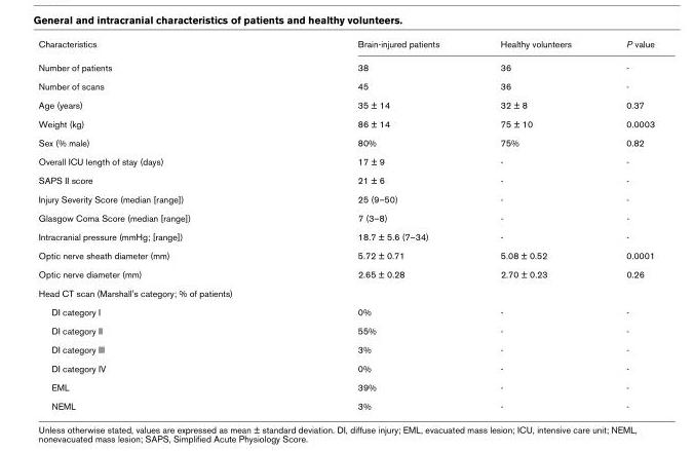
<table><tbody><tr><td>Characteristics</td><td>Brain-injured patients</td><td>Healthy volunteers</td><td>P value</td></tr><tr><td>Number of patients</td><td>38</td><td>36</td><td>-</td></tr><tr><td>Number of scans</td><td>45</td><td>36</td><td>-</td></tr><tr><td>Age (years)</td><td>35 ± 14</td><td>32 ± 8</td><td>0.37</td></tr><tr><td>Weight (kg)</td><td>86 ± 14</td><td>75 ± 10</td><td>0.0003</td></tr><tr><td>Sex (% male)</td><td>80%</td><td>75%</td><td>0.82</td></tr><tr><td>Overall ICU length of stay (days)</td><td>17 ± 9</td><td>-</td><td>-</td></tr><tr><td>SAPS II score</td><td>21 ± 6</td><td>-</td><td>-</td></tr><tr><td>Injury Severity Score (median [range])</td><td>25 (9–50)</td><td>-</td><td>-</td></tr><tr><td>Glasgow Coma Score (median [range])</td><td>7 (3–8)</td><td>-</td><td>-</td></tr><tr><td>Intracranial pressure (mmHg; [range])</td><td>18.7 ± 5.6 (7–34)</td><td>-</td><td>-</td></tr><tr><td>Optic nerve sheath diameter (mm)</td><td>5.72 ± 0.71</td><td>5.08 ± 0.52</td><td>0.0001</td></tr><tr><td>Optic nerve diameter (mm)</td><td>2.65 ± 0.28</td><td>2.70 ± 0.23</td><td>0.26</td></tr><tr><td colspan="4">Head CT scan (Marshall&#x27;s category; % of patients)</td></tr><tr><td>DI category I</td><td>0%</td><td>-</td><td>-</td></tr><tr><td>DI category II</td><td>55%</td><td>-</td><td>-</td></tr><tr><td>DI category III</td><td>3%</td><td>-</td><td>-</td></tr><tr><td>DI category IV</td><td>0%</td><td>-</td><td>-</td></tr><tr><td>EML</td><td>39%</td><td>-</td><td>-</td></tr><tr><td>NEML</td><td>3%</td><td>-</td><td>-</td></tr></tbody></table>